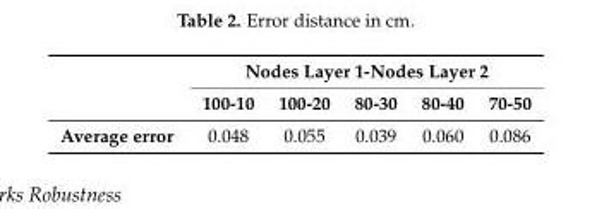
<table><thead><tr><td rowspan="2"></td><td colspan="5">Nodes Layer 1-Nodes Layer 2</td></tr><tr><td>100-10</td><td>100-20</td><td>80-30</td><td>80-40</td><td>70-50</td></tr></thead><tbody><tr><td>Average error</td><td>0.048</td><td>0.055</td><td>0.039</td><td>0.060</td><td>0.086</td></tr></tbody></table>